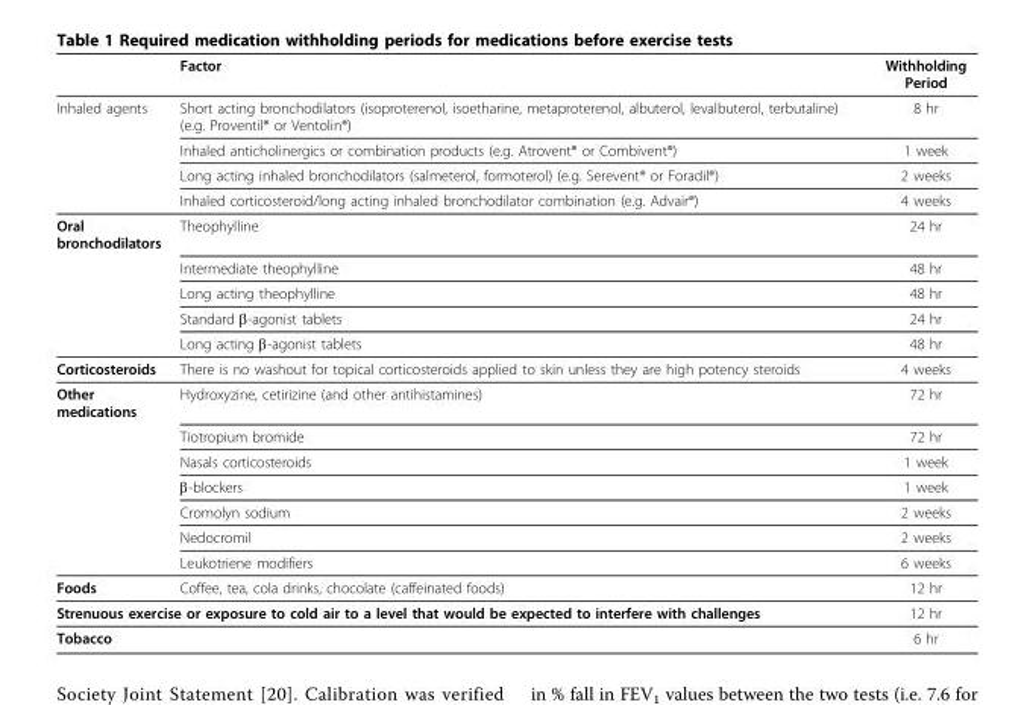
<table><thead><tr><td></td><td>Factor</td><td>Withholding Period</td></tr></thead><tbody><tr><td rowspan="4">Inhaled agents</td><td>Short acting bronchodilators (isoproterenol, isoetharine, metaproterenol, albuterol, levalbuterol, terbutaline) (e.g. Proventil<sup>®</sup> or Ventolin<sup>®</sup>)</td><td>8 hr</td></tr><tr><td>Inhaled anticholinergics or combination products (e.g. Atrovent<sup>®</sup> or Combivent<sup>®</sup>)</td><td>1 week</td></tr><tr><td>Long acting inhaled bronchodilators (salmeterol, formoterol) (e.g. Serevent<sup>®</sup> or Foradil<sup>®</sup>)</td><td>2 weeks</td></tr><tr><td>Inhaled corticosteroid/long acting inhaled bronchodilator combination (e.g. Advair<sup>®</sup>)</td><td>4 weeks</td></tr><tr><td rowspan="5">Oral bronchodilators</td><td>Theophylline</td><td>24 hr</td></tr><tr><td>Intermediate theophylline</td><td>48 hr</td></tr><tr><td>Long acting theophylline</td><td>48 hr</td></tr><tr><td>Standard β-agonist tablets</td><td>24 hr</td></tr><tr><td>Long acting β-agonist tablets</td><td>48 hr</td></tr><tr><td>Corticosteroids</td><td>There is no washout for topical corticosteroids applied to skin unless they are high potency steroids</td><td>4 weeks</td></tr><tr><td rowspan="7">Other medications</td><td>Hydroxyzine, cetirizine (and other antihistamines)</td><td>72 hr</td></tr><tr><td>Tiotropium bromide</td><td>72 hr</td></tr><tr><td>Nasals corticosteroids</td><td>1 week</td></tr><tr><td>β-blockers</td><td>1 week</td></tr><tr><td>Cromolyn sodium</td><td>2 weeks</td></tr><tr><td>Nedocromil</td><td>2 weeks</td></tr><tr><td>Leukotriene modifiers</td><td>6 weeks</td></tr><tr><td>Foods</td><td>Coffee, tea, cola drinks, chocolate (caffeinated foods)</td><td>12 hr</td></tr><tr><td colspan="2">Strenuous exercise or exposure to cold air to a level that would be expected to interfere with challenges</td><td>12 hr</td></tr><tr><td colspan="2">Tobacco</td><td>6 hr</td></tr></tbody></table>